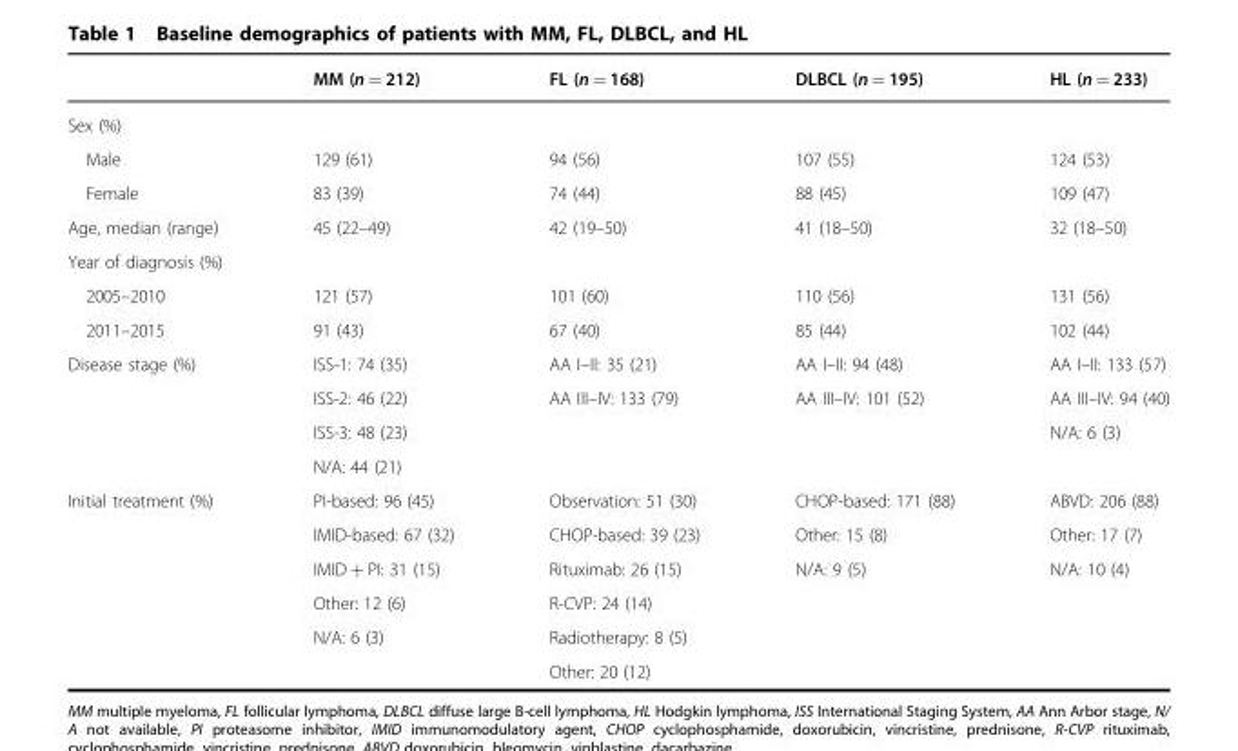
<table><thead><tr><td></td><td>MM (n = 212)</td><td>FL (n = 168)</td><td>DLBCL (n = 195)</td><td>HL (n = 233)</td></tr></thead><tbody><tr><td colspan="5">Sex (%)</td></tr><tr><td>Male</td><td>129 (61)</td><td>94 (56)</td><td>107 (55)</td><td>124 (53)</td></tr><tr><td>Female</td><td>83 (39)</td><td>74 (44)</td><td>88 (45)</td><td>109 (47)</td></tr><tr><td>Age, median (range)</td><td>45 (22–49)</td><td>42 (19–50)</td><td>41 (18–50)</td><td>32 (18–50)</td></tr><tr><td colspan="5">Year of diagnosis (%)</td></tr><tr><td>2005–2010</td><td>121 (57)</td><td>101 (60)</td><td>110 (56)</td><td>131 (56)</td></tr><tr><td>2011–2015</td><td>91 (43)</td><td>67 (40)</td><td>85 (44)</td><td>102 (44)</td></tr><tr><td rowspan="4">Disease stage (%)</td><td>ISS-1: 74 (35)</td><td>AA I–II: 35 (21)</td><td>AA I–II: 94 (48)</td><td>AA I–II: 133 (57)</td></tr><tr><td>ISS-2: 46 (22)</td><td>AA III–IV: 133 (79)</td><td>AA III–IV: 101 (52)</td><td>AA III–IV: 94 (40)</td></tr><tr><td>ISS-3: 48 (23)</td><td></td><td></td><td>N/A: 6 (3)</td></tr><tr><td>N/A: 44 (21)</td><td></td><td></td><td></td></tr><tr><td rowspan="6">Initial treatment (%)</td><td>PI-based: 96 (45)</td><td>Observation: 51 (30)</td><td>CHOP-based: 171 (88)</td><td>ABVD: 206 (88)</td></tr><tr><td>IMID-based: 67 (32)</td><td>CHOP-based: 39 (23)</td><td>Other: 15 (8)</td><td>Other: 17 (7)</td></tr><tr><td>IMID + PI: 31 (15)</td><td>Rituximab: 26 (15)</td><td>N/A: 9 (5)</td><td>N/A: 10 (4)</td></tr><tr><td>Other: 12 (6)</td><td>R-CVP: 24 (14)</td><td></td><td></td></tr><tr><td>N/A: 6 (3)</td><td>Radiotherapy: 8 (5)</td><td></td><td></td></tr><tr><td></td><td>Other: 20 (12)</td><td></td><td></td></tr></tbody></table>